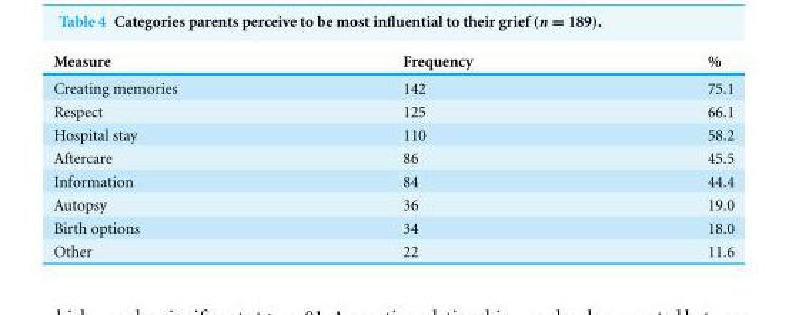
<table><thead><tr><td>Measure</td><td>Frequency</td><td>%</td></tr></thead><tbody><tr><td>Creating memories</td><td>142</td><td>75.1</td></tr><tr><td>Respect</td><td>125</td><td>66.1</td></tr><tr><td>Hospital stay</td><td>110</td><td>58.2</td></tr><tr><td>Aftercare</td><td>86</td><td>45.5</td></tr><tr><td>Information</td><td>84</td><td>44.4</td></tr><tr><td>Autopsy</td><td>36</td><td>19.0</td></tr><tr><td>Birth options</td><td>34</td><td>18.0</td></tr><tr><td>Other</td><td>22</td><td>11.6</td></tr></tbody></table>